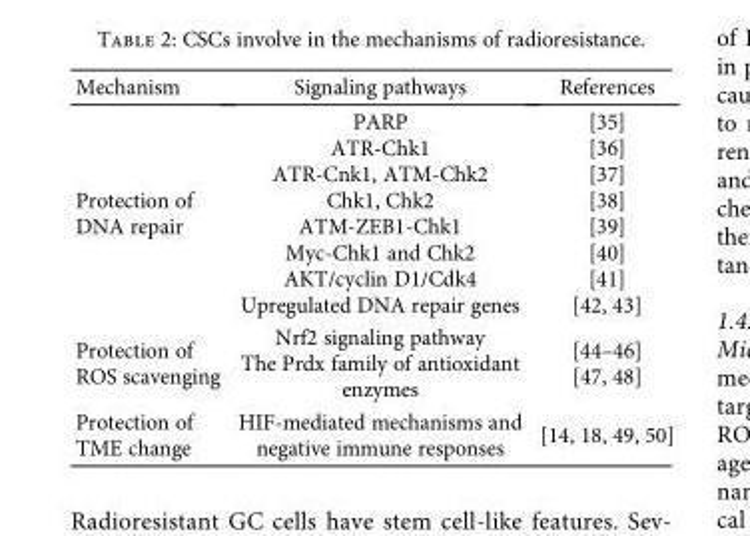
<table><thead><tr><td>Mechanism</td><td>Signaling pathways</td><td>References</td></tr></thead><tbody><tr><td>Protection of DNA repair</td><td>PARP ATR-Chk1 ATR-Cnk1, ATM-Chk2 Chk1, Chk2 ATM-ZEB1-Chk1 Myc-Chk1 and Chk2 AKT/cyclin D1/Cdk4 Upregulated DNA repair genes</td><td>[35] [36] [37] [38] [39] [40] [41] [42, 43]</td></tr><tr><td>Protection of ROS scavenging</td><td>Nrf2 signaling pathway The Prdx family of antioxidant enzymes</td><td>[44–46] [47, 48]</td></tr><tr><td>Protection of TME change</td><td>HIF-mediated mechanisms and negative immune responses</td><td>[14, 18, 49, 50]</td></tr></tbody></table>